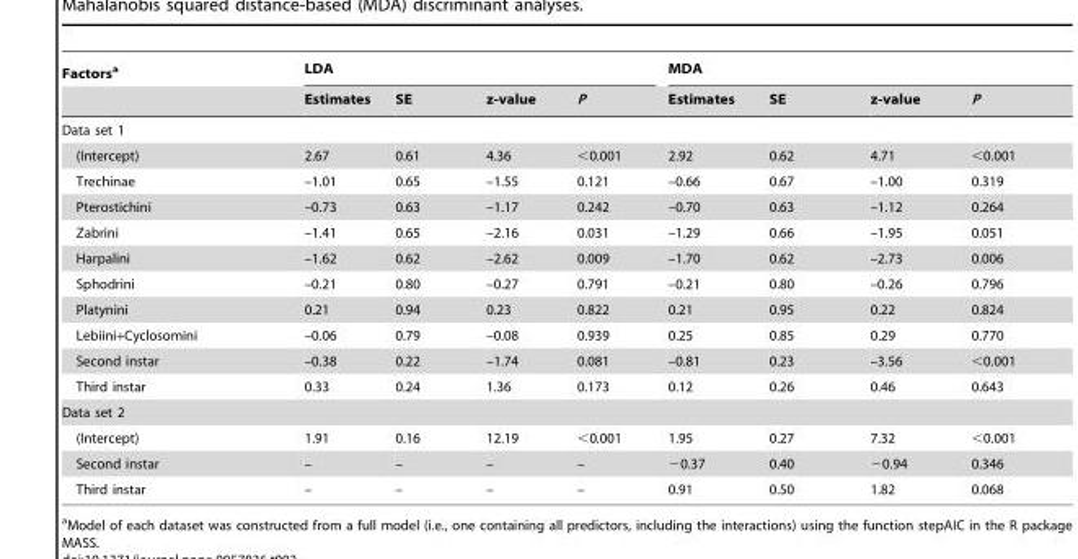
<table><thead><tr><td rowspan="2">Factors<sup>a</sup></td><td colspan="4">LDA</td><td colspan="4">MDA</td></tr><tr><td>Estimates</td><td>SE</td><td>z-value</td><td>P</td><td>Estimates</td><td>SE</td><td>z-value</td><td>P</td></tr></thead><tbody><tr><td colspan="9">Data set 1</td></tr><tr><td>(Intercept)</td><td>2.67</td><td>0.61</td><td>4.36</td><td>&lt;0.001</td><td>2.92</td><td>0.62</td><td>4.71</td><td>&lt;0.001</td></tr><tr><td>Trechinae</td><td>–1.01</td><td>0.65</td><td>–1.55</td><td>0.121</td><td>–0.66</td><td>0.67</td><td>–1.00</td><td>0.319</td></tr><tr><td>Pterostichini</td><td>–0.73</td><td>0.63</td><td>–1.17</td><td>0.242</td><td>–0.70</td><td>0.63</td><td>–1.12</td><td>0.264</td></tr><tr><td>Zabrini</td><td>–1.41</td><td>0.65</td><td>–2.16</td><td>0.031</td><td>–1.29</td><td>0.66</td><td>–1.95</td><td>0.051</td></tr><tr><td>Harpalini</td><td>–1.62</td><td>0.62</td><td>–2.62</td><td>0.009</td><td>–1.70</td><td>0.62</td><td>–2.73</td><td>0.006</td></tr><tr><td>Sphodrini</td><td>–0.21</td><td>0.80</td><td>–0.27</td><td>0.791</td><td>–0.21</td><td>0.80</td><td>–0.26</td><td>0.796</td></tr><tr><td>Platynini</td><td>0.21</td><td>0.94</td><td>0.23</td><td>0.822</td><td>0.21</td><td>0.95</td><td>0.22</td><td>0.824</td></tr><tr><td>Lebiini+Cyclosomini</td><td>–0.06</td><td>0.79</td><td>–0.08</td><td>0.939</td><td>0.25</td><td>0.85</td><td>0.29</td><td>0.770</td></tr><tr><td>Second instar</td><td>–0.38</td><td>0.22</td><td>–1.74</td><td>0.081</td><td>–0.81</td><td>0.23</td><td>–3.56</td><td>&lt;0.001</td></tr><tr><td>Third instar</td><td>0.33</td><td>0.24</td><td>1.36</td><td>0.173</td><td>0.12</td><td>0.26</td><td>0.46</td><td>0.643</td></tr><tr><td colspan="9">Data set 2</td></tr><tr><td>(Intercept)</td><td>1.91</td><td>0.16</td><td>12.19</td><td>&lt;0.001</td><td>1.95</td><td>0.27</td><td>7.32</td><td>&lt;0.001</td></tr><tr><td>Second instar</td><td>–</td><td>–</td><td>–</td><td>–</td><td>−0.37</td><td>0.40</td><td>−0.94</td><td>0.346</td></tr><tr><td>Third instar</td><td>–</td><td>–</td><td>–</td><td>–</td><td>0.91</td><td>0.50</td><td>1.82</td><td>0.068</td></tr></tbody></table>